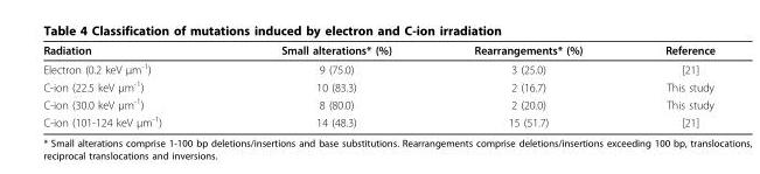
<table><thead><tr><td>Radiation</td><td>Small alterations* (%)</td><td>Rearrangements* (%)</td><td>Reference</td></tr></thead><tbody><tr><td>Electron (0.2 keV μm<sup>-1</sup>)</td><td>9 (75.0)</td><td>3 (25.0)</td><td>[21]</td></tr><tr><td>C-ion (22.5 keV μm<sup>-1</sup>)</td><td>10 (83.3)</td><td>2 (16.7)</td><td>This study</td></tr><tr><td>C-ion (30.0 keV μm<sup>-1</sup>)</td><td>8 (80.0)</td><td>2 (20.0)</td><td>This study</td></tr><tr><td>C-ion (101-124 keV μm<sup>-1</sup>)</td><td>14 (48.3)</td><td>15 (51.7)</td><td>[21]</td></tr></tbody></table>